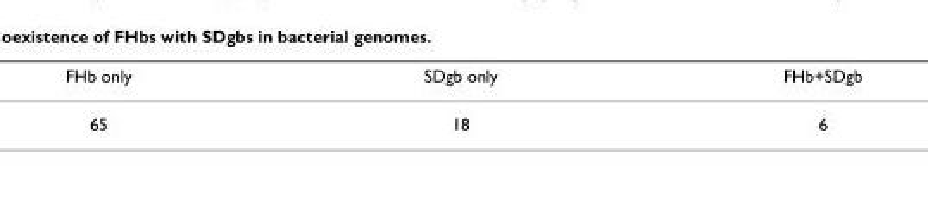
<table><thead><tr><td>FHb only</td><td>SDgb only</td><td>FHb+SDgb</td></tr></thead><tbody><tr><td>65</td><td>18</td><td>6</td></tr></tbody></table>